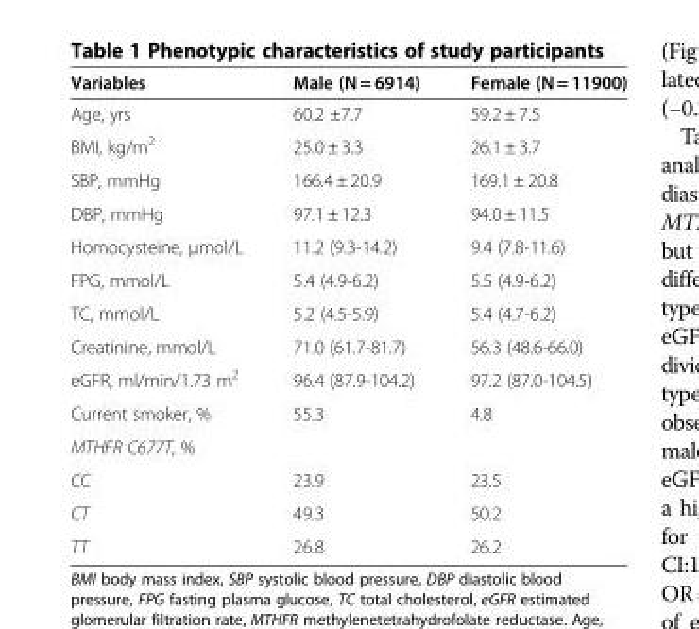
<table><thead><tr><td>Variables</td><td>Male (N = 6914)</td><td>Female (N = 11900)</td></tr></thead><tbody><tr><td>Age, yrs</td><td>60.2 ±7.7</td><td>59.2 ± 7.5</td></tr><tr><td>BMI, kg/m<sup>2</sup></td><td>25.0 ± 3.3</td><td>26.1 ± 3.7</td></tr><tr><td>SBP, mmHg</td><td>166.4 ± 20.9</td><td>169.1 ± 20.8</td></tr><tr><td>DBP, mmHg</td><td>97.1 ± 12.3</td><td>94.0 ± 11.5</td></tr><tr><td>Homocysteine, μmol/L</td><td>11.2 (9.3-14.2)</td><td>9.4 (7.8-11.6)</td></tr><tr><td>FPG, mmol/L</td><td>5.4 (4.9-6.2)</td><td>5.5 (4.9-6.2)</td></tr><tr><td>TC, mmol/L</td><td>5.2 (4.5-5.9)</td><td>5.4 (4.7-6.2)</td></tr><tr><td>Creatinine, mmol/L</td><td>71.0 (61.7-81.7)</td><td>56.3 (48.6-66.0)</td></tr><tr><td>eGFR, ml/min/1.73 m<sup>2</sup></td><td>96.4 (87.9-104.2)</td><td>97.2 (87.0-104.5)</td></tr><tr><td>Current smoker, %</td><td>55.3</td><td>4.8</td></tr><tr><td colspan="3">MTHFR C677T, %</td></tr><tr><td>CC</td><td>23.9</td><td>23.5</td></tr><tr><td>CT</td><td>49.3</td><td>50.2</td></tr><tr><td>TT</td><td>26.8</td><td>26.2</td></tr></tbody></table>